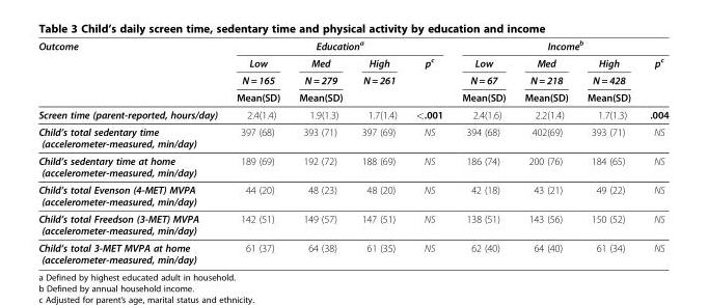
<table><thead><tr><td rowspan="4">Outcome</td><td colspan="4">Education<sup>a</sup></td><td colspan="4">Income<sup>b</sup></td></tr><tr><td rowspan="3">Low N = 165 Mean(SD)</td><td rowspan="3">Med N = 279 Mean(SD)</td><td rowspan="3">High N = 261</td><td rowspan="3">p<sup>c</sup></td><td rowspan="3">Low N = 67 Mean(SD)</td><td rowspan="3">Med N = 218 Mean(SD)</td><td rowspan="3">High N = 428 Mean(SD)</td><td rowspan="3">p<sup>c</sup></td></tr><tr></tr><tr></tr></thead><tbody><tr><td>Screen time (parent-reported, hours/day)</td><td>2.4(1.4)</td><td>1.9(1.3)</td><td>1.7(1.4)</td><td>&lt;.001</td><td>2.4(1.6)</td><td>2.2(1.4)</td><td>1.7(1.3)</td><td>.004</td></tr><tr><td>Child’s total sedentary time (accelerometer-measured, min/day)</td><td>397 (68)</td><td>393 (71)</td><td>397 (69)</td><td>NS</td><td>394 (68)</td><td>402(69)</td><td>393 (71)</td><td>NS</td></tr><tr><td>Child’s sedentary time at home (accelerometer-measured, min/day)</td><td>189 (69)</td><td>192 (72)</td><td>188 (69)</td><td>NS</td><td>186 (74)</td><td>200 (76)</td><td>184 (65)</td><td>NS</td></tr><tr><td>Child’s total Evenson (4-MET) MVPA (accelerometer-measured, min/day)</td><td>44 (20)</td><td>48 (23)</td><td>48 (20)</td><td>NS</td><td>42 (18)</td><td>43 (21)</td><td>49 (22)</td><td>NS</td></tr><tr><td>Child’s total Freedson (3-MET) MVPA (accelerometer-measured, min/day)</td><td>142 (51)</td><td>149 (57)</td><td>147 (51)</td><td>NS</td><td>138 (51)</td><td>143 (56)</td><td>150 (52)</td><td>NS</td></tr><tr><td>Child’s total 3-MET MVPA at home (accelerometer-measured, min/day)</td><td>61 (37)</td><td>64 (38)</td><td>61 (35)</td><td>NS</td><td>62 (40)</td><td>64 (40)</td><td>61 (34)</td><td>NS</td></tr></tbody></table>